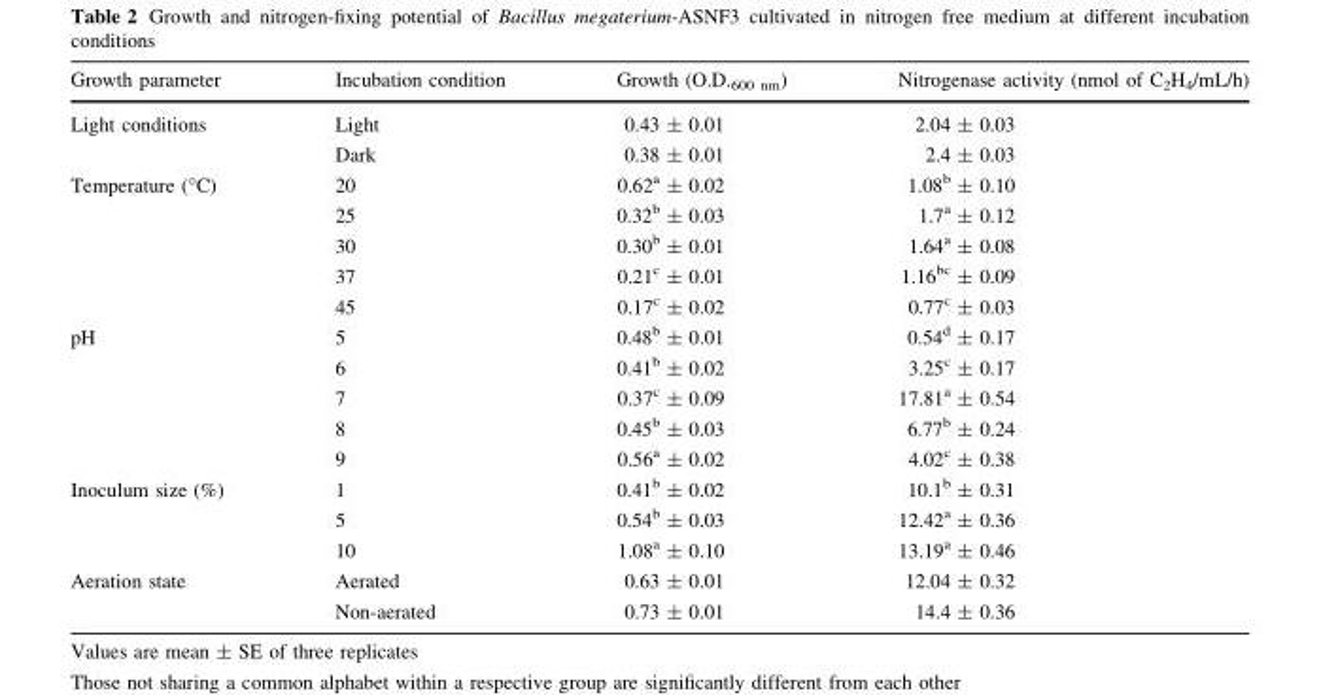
<table><thead><tr><td>Growth parameter</td><td>Incubation condition</td><td>Growth (O.D.<sub>600 nm</sub>)</td><td>Nitrogenase activity (nmol of C<sub>2</sub>H<sub>4</sub>/mL/h)</td></tr></thead><tbody><tr><td rowspan="2">Light conditions</td><td>Light</td><td>0.43 ± 0.01</td><td>2.04 ± 0.03</td></tr><tr><td>Dark</td><td>0.38 ± 0.01</td><td>2.4 ± 0.03</td></tr><tr><td rowspan="5">Temperature (°C)</td><td>20</td><td>0.62<sup>a</sup> ± 0.02</td><td>1.08<sup>b</sup> ± 0.10</td></tr><tr><td>25</td><td>0.32<sup>b</sup> ± 0.03</td><td>1.7<sup>a</sup> ± 0.12</td></tr><tr><td>30</td><td>0.30<sup>b</sup> ± 0.01</td><td>1.64<sup>a</sup> ± 0.08</td></tr><tr><td>37</td><td>0.21<sup>c</sup> ± 0.01</td><td>1.16<sup>bc</sup> ± 0.09</td></tr><tr><td>45</td><td>0.17<sup>c</sup> ± 0.02</td><td>0.77<sup>c</sup> ± 0.03</td></tr><tr><td rowspan="5">pH</td><td>5</td><td>0.48<sup>b</sup> ± 0.01</td><td>0.54<sup>d</sup> ± 0.17</td></tr><tr><td>6</td><td>0.41<sup>b</sup> ± 0.02</td><td>3.25<sup>c</sup> ± 0.17</td></tr><tr><td>7</td><td>0.37<sup>c</sup> ± 0.09</td><td>17.81<sup>a</sup> ± 0.54</td></tr><tr><td>8</td><td>0.45<sup>b</sup> ± 0.03</td><td>6.77<sup>b</sup> ± 0.24</td></tr><tr><td>9</td><td>0.56<sup>a</sup> ± 0.02</td><td>4.02<sup>c</sup> ± 0.38</td></tr><tr><td rowspan="3">Inoculum size (%)</td><td>1</td><td>0.41<sup>b</sup> ± 0.02</td><td>10.1<sup>b</sup> ± 0.31</td></tr><tr><td>5</td><td>0.54<sup>b</sup> ± 0.03</td><td>12.42<sup>a</sup> ± 0.36</td></tr><tr><td>10</td><td>1.08<sup>a</sup> ± 0.10</td><td>13.19<sup>a</sup> ± 0.46</td></tr><tr><td rowspan="2">Aeration state</td><td>Aerated</td><td>0.63 ± 0.01</td><td>12.04 ± 0.32</td></tr><tr><td>Non-aerated</td><td>0.73 ± 0.01</td><td>14.4 ± 0.36</td></tr></tbody></table>